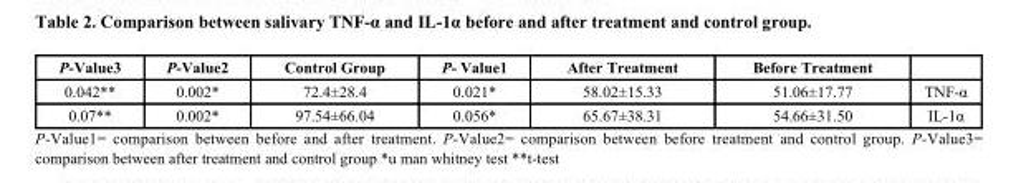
<table><thead><tr><td>P-Value3</td><td>P-Value2</td><td>Control Group</td><td>P- Value1</td><td>After Treatment</td><td>Before Treatment</td><td></td></tr></thead><tbody><tr><td>0.042**</td><td>0.002*</td><td>72.4±28.4</td><td>0.021*</td><td>58.02±15.33</td><td>51.06±17.77</td><td>TNF-α</td></tr><tr><td>0.07**</td><td>0.002*</td><td>97.54±66.04</td><td>0.056*</td><td>65.67±38.31</td><td>54.66±31.50</td><td>IL-1α</td></tr></tbody></table>